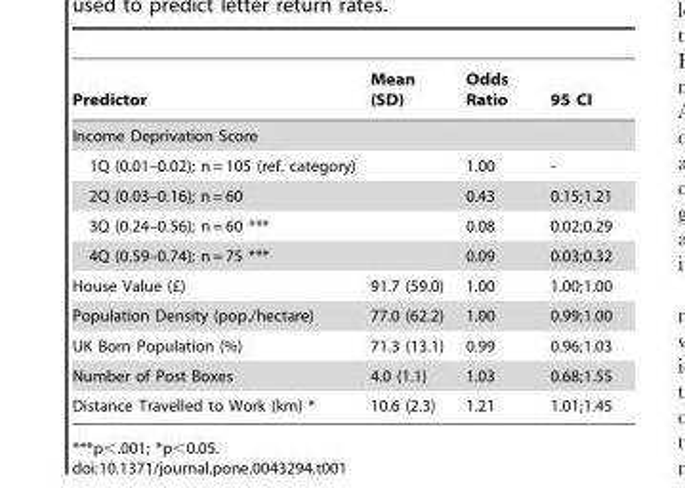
<table><thead><tr><td>Predictor</td><td>Mean (SD)</td><td>Odds Ratio</td><td>95 CI</td></tr></thead><tbody><tr><td colspan="4">Income Deprivation Score</td></tr><tr><td>1Q (0.01–0.02); n = 105 (ref. category)</td><td></td><td>1.00</td><td>-</td></tr><tr><td>2Q (0.03–0.16); n = 60</td><td></td><td>0.43</td><td>0.15;1.21</td></tr><tr><td>3Q (0.24–0.56); n = 60 ***</td><td></td><td>0.08</td><td>0.02;0.29</td></tr><tr><td>4Q (0.59–0.74); n = 75 ***</td><td></td><td>0.09</td><td>0.03;0.32</td></tr><tr><td>House Value (£)</td><td>91.7 (59.0)</td><td>1.00</td><td>1.00;1.00</td></tr><tr><td>Population Density (pop./hectare)</td><td>77.0 (62.2)</td><td>1.00</td><td>0.99;1.00</td></tr><tr><td>UK Born Population (%)</td><td>71.3 (13.1)</td><td>0.99</td><td>0.96;1.03</td></tr><tr><td>Number of Post Boxes</td><td>4.0 (1.1)</td><td>1.03</td><td>0.68;1.55</td></tr><tr><td>Distance Travelled to Work (km) *</td><td>10.6 (2.3)</td><td>1.21</td><td>1.01;1.45</td></tr></tbody></table>